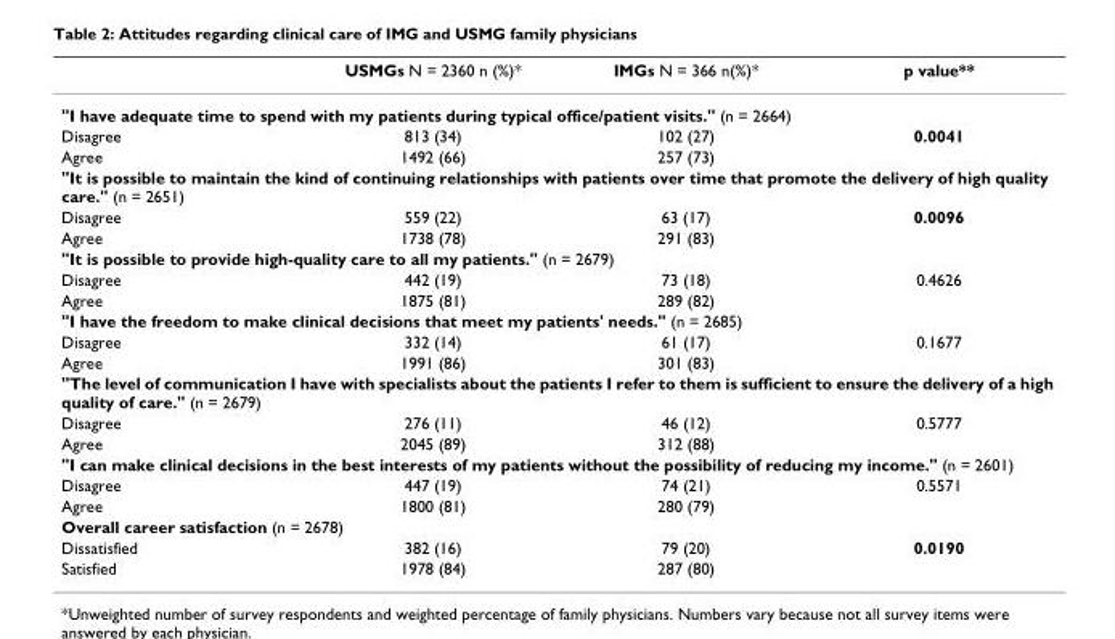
<table><thead><tr><td></td><td>USMGs N = 2360 n (%)*</td><td>IMGs N = 366 n(%)*</td><td>p value**</td></tr></thead><tbody><tr><td colspan="4">&quot;I have adequate time to spend with my patients during typical office/patient visits.&quot; (n = 2664)</td></tr><tr><td>Disagree</td><td>813 (34)</td><td>102 (27)</td><td>0.0041</td></tr><tr><td>Agree</td><td>1492 (66)</td><td>257 (73)</td><td></td></tr><tr><td colspan="4">&quot;It is possible to maintain the kind of continuing relationships with patients over time that promote the delivery of high quality care.&quot; (n = 2651)</td></tr><tr><td>Disagree</td><td>559 (22)</td><td>63 (17)</td><td>0.0096</td></tr><tr><td>Agree</td><td>1738 (78)</td><td>291 (83)</td><td></td></tr><tr><td colspan="4">&quot;It is possible to provide high-quality care to all my patients.&quot; (n = 2679)</td></tr><tr><td>Disagree</td><td>442 (19)</td><td>73 (18)</td><td>0.4626</td></tr><tr><td>Agree</td><td>1875 (81)</td><td>289 (82)</td><td></td></tr><tr><td colspan="4">&quot;I have the freedom to make clinical decisions that meet my patients&#x27; needs.&quot; (n = 2685)</td></tr><tr><td>Disagree</td><td>332 (14)</td><td>61 (17)</td><td>0.1677</td></tr><tr><td>Agree</td><td>1991 (86)</td><td>301 (83)</td><td></td></tr><tr><td colspan="4">&quot;The level of communication I have with specialists about the patients I refer to them is sufficient to ensure the delivery of a high quality of care.&quot; (n = 2679)</td></tr><tr><td>Disagree</td><td>276 (11)</td><td>46 (12)</td><td>0.5777</td></tr><tr><td>Agree</td><td>2045 (89)</td><td>312 (88)</td><td></td></tr><tr><td colspan="4">&quot;I can make clinical decisions in the best interests of my patients without the possibility of reducing my income.&quot; (n = 2601)</td></tr><tr><td>Disagree</td><td>447 (19)</td><td>74 (21)</td><td>0.5571</td></tr><tr><td>Agree</td><td>1800 (81)</td><td>280 (79)</td><td></td></tr><tr><td colspan="4">Overall career satisfaction (n = 2678)</td></tr><tr><td>Dissatisfied</td><td>382 (16)</td><td>79 (20)</td><td>0.0190</td></tr><tr><td>Satisfied</td><td>1978 (84)</td><td>287 (80)</td><td></td></tr></tbody></table>